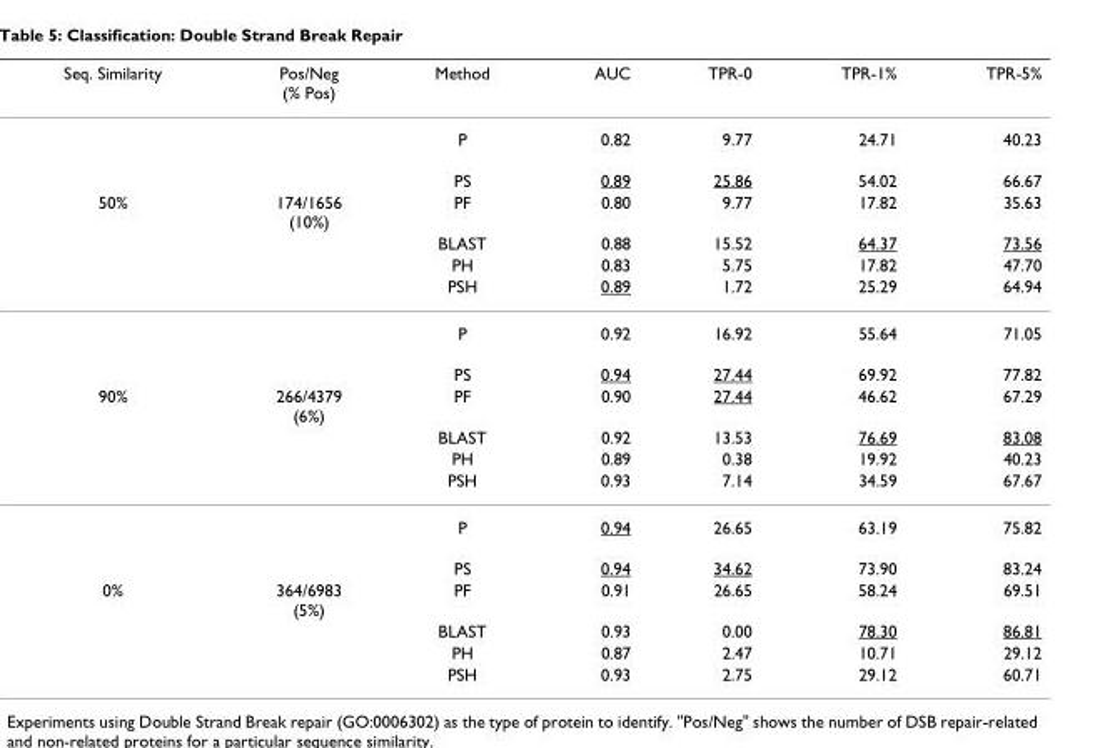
<table><thead><tr><td>Seq. Similarity</td><td>Pos/Neg (% Pos)</td><td>Method</td><td>AUC</td><td>TPR-0</td><td>TPR-1%</td><td>TPR-5%</td></tr></thead><tbody><tr><td></td><td></td><td>P</td><td>0.82</td><td>9.77</td><td>24.71</td><td>40.23</td></tr><tr><td></td><td></td><td>PS</td><td>0.89</td><td>25.86</td><td>54.02</td><td>66.67</td></tr><tr><td rowspan="6">50%</td><td>174/1656 (10%)</td><td>PF</td><td>0.80</td><td>9.77</td><td>17.82</td><td>35.63</td></tr><tr><td></td><td>BLAST</td><td>0.88</td><td>15.52</td><td>64.37</td><td>73.56</td></tr><tr><td></td><td>PH</td><td>0.83</td><td>5.75</td><td>17.82</td><td>47.70</td></tr><tr><td></td><td>PSH</td><td>0.89</td><td>1.72</td><td>25.29</td><td>64.94</td></tr><tr><td></td><td>P</td><td>0.92</td><td>16.92</td><td>55.64</td><td>71.05</td></tr><tr><td></td><td>PS</td><td>0.94</td><td>27.44</td><td>69.92</td><td>77.82</td></tr><tr><td rowspan="6">90%</td><td>266/4379 (6%)</td><td>PF</td><td>0.90</td><td>27.44</td><td>46.62</td><td>67.29</td></tr><tr><td></td><td>BLAST</td><td>0.92</td><td>13.53</td><td>76.69</td><td>83.08</td></tr><tr><td></td><td>PH</td><td>0.89</td><td>0.38</td><td>19.92</td><td>40.23</td></tr><tr><td></td><td>PSH</td><td>0.93</td><td>7.14</td><td>34.59</td><td>67.67</td></tr><tr><td></td><td>P</td><td>0.94</td><td>26.65</td><td>63.19</td><td>75.82</td></tr><tr><td></td><td>PS</td><td>0.94</td><td>34.62</td><td>73.90</td><td>83.24</td></tr><tr><td rowspan="4">0%</td><td>364/6983 (5%)</td><td>PF</td><td>0.91</td><td>26.65</td><td>58.24</td><td>69.51</td></tr><tr><td></td><td>BLAST</td><td>0.93</td><td>0.00</td><td>78.30</td><td>86.81</td></tr><tr><td></td><td>PH</td><td>0.87</td><td>2.47</td><td>10.71</td><td>29.12</td></tr><tr><td></td><td>PSH</td><td>0.93</td><td>2.75</td><td>29.12</td><td>60.71</td></tr></tbody></table>